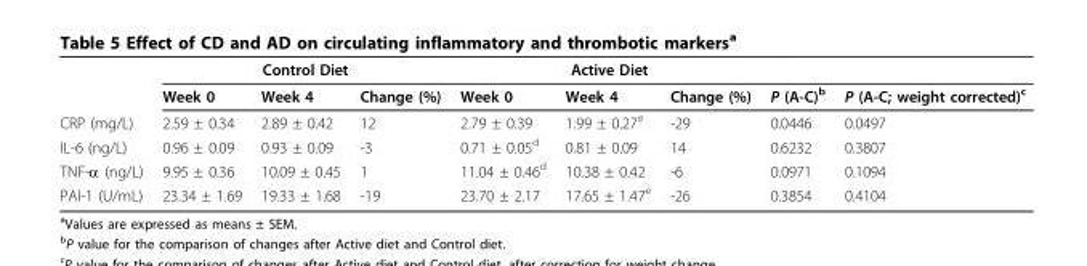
<table><thead><tr><td rowspan="2"></td><td colspan="3">Control Diet</td><td colspan="3">Active Diet</td><td rowspan="2">P (A-C)<sup>b</sup></td><td rowspan="2">P (A-C; weight corrected)<sup>c</sup></td></tr><tr><td>Week 0</td><td>Week 4</td><td>Change (%)</td><td>Week 0</td><td>Week 4</td><td>Change (%)</td></tr></thead><tbody><tr><td>CRP (mg/L)</td><td>2.59 ± 0.34</td><td>2.89 ± 0.42</td><td>12</td><td>2.79 ± 0.39</td><td>1.99 ± 0.27<sup>e</sup></td><td>-29</td><td>0.0446</td><td>0.0497</td></tr><tr><td>IL-6 (ng/L)</td><td>0.96 ± 0.09</td><td>0.93 ± 0.09</td><td>-3</td><td>0.71 ± 0.05<sup>d</sup></td><td>0.81 ± 0.09</td><td>14</td><td>0.6232</td><td>0.3807</td></tr><tr><td>TNF-α (ng/L)</td><td>9.95 ± 0.36</td><td>10.09 ± 0.45</td><td>1</td><td>11.04 ± 0.46<sup>d</sup></td><td>10.38 ± 0.42</td><td>-6</td><td>0.0971</td><td>0.1094</td></tr><tr><td>PAI-1 (U/mL)</td><td>23.34 ± 1.69</td><td>19.33 ± 1.68</td><td>-19</td><td>23.70 ± 2.17</td><td>17.65 ± 1.47<sup>e</sup></td><td>-26</td><td>0.3854</td><td>0.4104</td></tr></tbody></table>